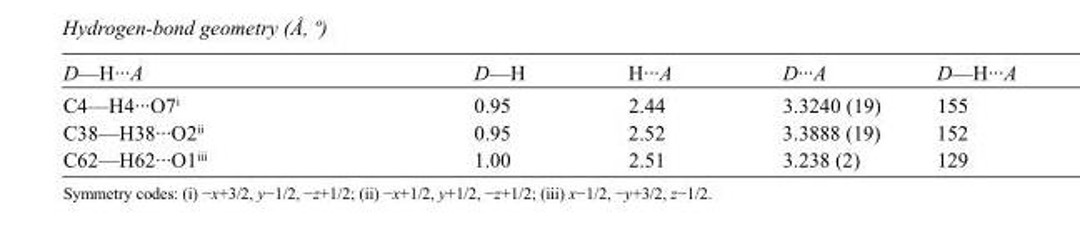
<table><tbody><tr><td>D—H···A</td><td>D—H</td><td>H···A</td><td>D···A</td><td>D—H···A</td></tr><tr><td>C4—H4···O7<sup>i</sup></td><td>0.95</td><td>2.44</td><td>3.3240 (19)</td><td>155</td></tr><tr><td>C38—H38···O2<sup>ii</sup></td><td>0.95</td><td>2.52</td><td>3.3888 (19)</td><td>152</td></tr><tr><td>C62—H62···O1<sup>iii</sup></td><td>1.00</td><td>2.51</td><td>3.238 (2)</td><td>129</td></tr></tbody></table>